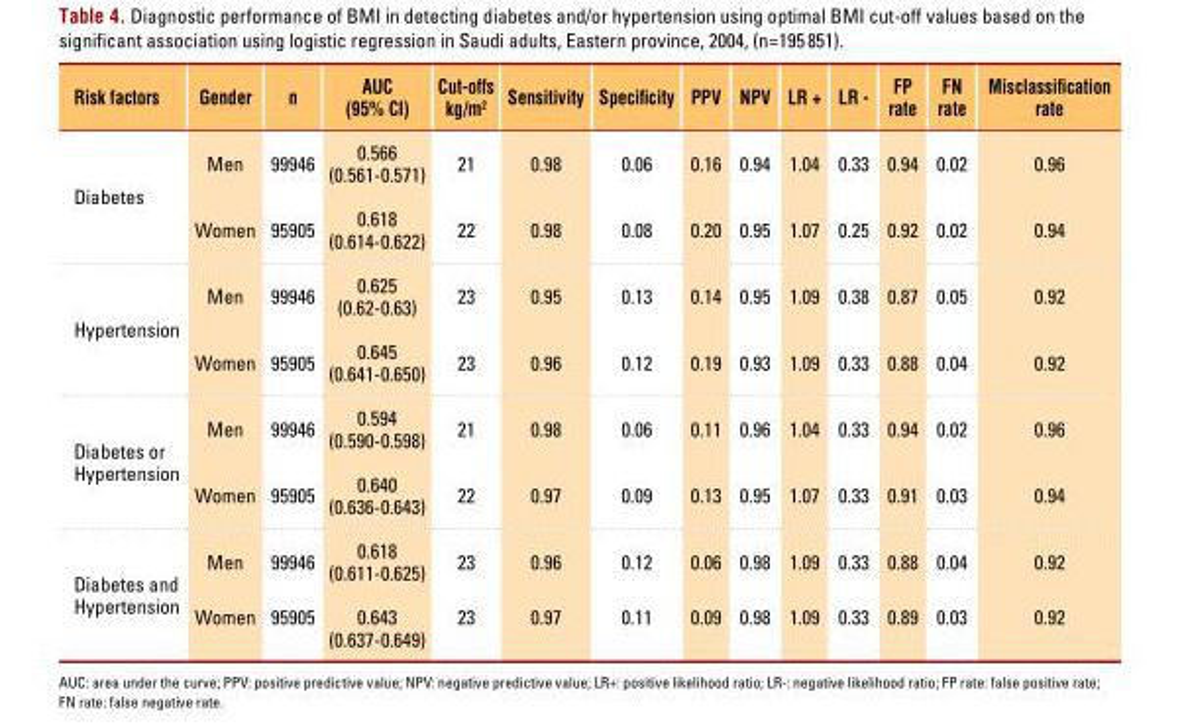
<table><thead><tr><td>Risk factors</td><td>Gender</td><td>n</td><td>AUC (95% CI)</td><td>Cut-offs kg/m<sup>2</sup></td><td>Sensitivity</td><td>Specificity</td><td>PPV</td><td>NPV</td><td>LR +</td><td>LR -</td><td>FP rate</td><td>FN rate</td><td>Misclassification rate</td></tr></thead><tbody><tr><td rowspan="2">Diabetes</td><td>Men</td><td>99946</td><td>0.566 (0.561-0.571)</td><td>21</td><td>0.98</td><td>0.06</td><td>0.16</td><td>0.94</td><td>1.04</td><td>0.33</td><td>0.94</td><td>0.02</td><td>0.96</td></tr><tr><td>Women</td><td>95905</td><td>0.618 (0.614-0.622)</td><td>22</td><td>0.98</td><td>0.08</td><td>0.20</td><td>0.95</td><td>1.07</td><td>0.25</td><td>0.92</td><td>0.02</td><td>0.94</td></tr><tr><td rowspan="2">Hypertension</td><td>Men</td><td>99946</td><td>0.625 (0.62-0.63)</td><td>23</td><td>0.95</td><td>0.13</td><td>0.14</td><td>0.95</td><td>1.09</td><td>0.38</td><td>0.87</td><td>0.05</td><td>0.92</td></tr><tr><td>Women</td><td>95905</td><td>0.645 (0.641-0.650)</td><td>23</td><td>0.96</td><td>0.12</td><td>0.19</td><td>0.93</td><td>1.09</td><td>0.33</td><td>0.88</td><td>0.04</td><td>0.92</td></tr><tr><td rowspan="2">Diabetes or Hypertension</td><td>Men</td><td>99946</td><td>0.594 (0.590-0.598)</td><td>21</td><td>0.98</td><td>0.06</td><td>0.11</td><td>0.96</td><td>1.04</td><td>0.33</td><td>0.94</td><td>0.02</td><td>0.96</td></tr><tr><td>Women</td><td>95905</td><td>0.640 (0.636-0.643)</td><td>22</td><td>0.97</td><td>0.09</td><td>0.13</td><td>0.95</td><td>1.07</td><td>0.33</td><td>0.91</td><td>0.03</td><td>0.94</td></tr><tr><td rowspan="2">Diabetes and Hypertension</td><td>Men</td><td>99946</td><td>0.618 (0.611-0.625)</td><td>23</td><td>0.96</td><td>0.12</td><td>0.06</td><td>0.98</td><td>1.09</td><td>0.33</td><td>0.88</td><td>0.04</td><td>0.92</td></tr><tr><td>Women</td><td>95905</td><td>0.643 (0.637-0.649)</td><td>23</td><td>0.97</td><td>0.11</td><td>0.09</td><td>0.98</td><td>1.09</td><td>0.33</td><td>0.89</td><td>0.03</td><td>0.92</td></tr></tbody></table>